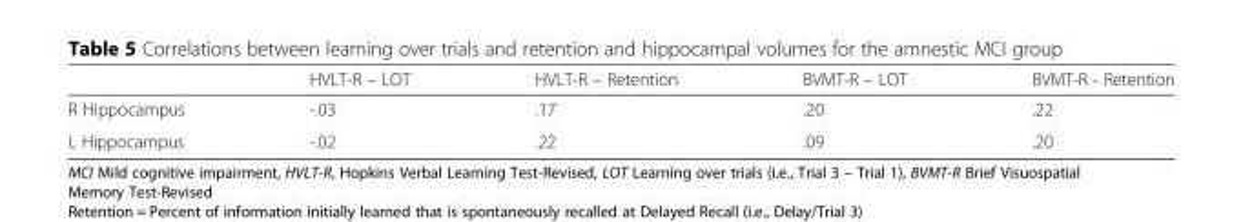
<table><thead><tr><td></td><td>HVLT-R – LOT</td><td>HVLT-R – Retention</td><td>BVMT-R – LOT</td><td>BVMT-R - Retention</td></tr></thead><tbody><tr><td>R Hippocampus</td><td>-.03</td><td>.17</td><td>.20</td><td>.22</td></tr><tr><td>L Hippocampus</td><td>-.02</td><td>.22</td><td>.09</td><td>.20</td></tr></tbody></table>